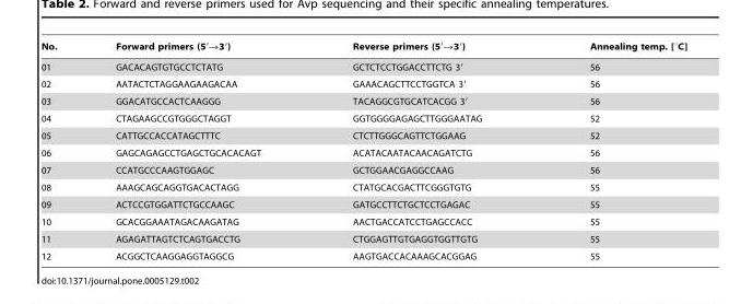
<table><thead><tr><td>No.</td><td>Forward primers (5′→3′)</td><td>Reverse primers (5′→3′)</td><td>Annealing temp. [°C]</td></tr></thead><tbody><tr><td>01</td><td>GACACAGTGTGCCTCTATG</td><td>GCTCTCCTGGACCTTCTG 3′</td><td>56</td></tr><tr><td>02</td><td>AATACTCTAGGAAGAAGACAA</td><td>GAAACAGCTTCCTGGTCA 3′</td><td>56</td></tr><tr><td>03</td><td>GGACATGCCACTCAAGGG</td><td>TACAGGCGTGCATCACGG 3′</td><td>56</td></tr><tr><td>04</td><td>CTAGAAGCCGTGGGCTAGGT</td><td>GGTGGGGAGAGCTTGGGAATAG</td><td>52</td></tr><tr><td>05</td><td>CATTGCCACCATAGCTTTC</td><td>CTCTTGGGCAGTTCTGGAAG</td><td>52</td></tr><tr><td>06</td><td>GAGCAGAGCCTGAGCTGCACACAGT</td><td>ACATACAATACAACAGATCTG</td><td>56</td></tr><tr><td>07</td><td>CCATGCCCAAGTGGAGC</td><td>GCTGGAACGAGGCCAAG</td><td>56</td></tr><tr><td>08</td><td>AAAGCAGCAGGTGACACTAGG</td><td>CTATGCACGACTTCGGGTGTG</td><td>55</td></tr><tr><td>09</td><td>ACTCCGTGGATTCTGCCAAGC</td><td>GATGCCTTCTGCTCCTGAGAC</td><td>55</td></tr><tr><td>10</td><td>GCACGGAAATAGACAAGATAG</td><td>AACTGACCATCCTGAGCCACC</td><td>55</td></tr><tr><td>11</td><td>AGAGATTAGTCTCAGTGACCTG</td><td>CTGGAGTTGTGAGGTGGTTGTG</td><td>55</td></tr><tr><td>12</td><td>ACGGCTCAAGGAGGTAGGCG</td><td>AAGTGACCACAAAGCACGGAG</td><td>55</td></tr></tbody></table>